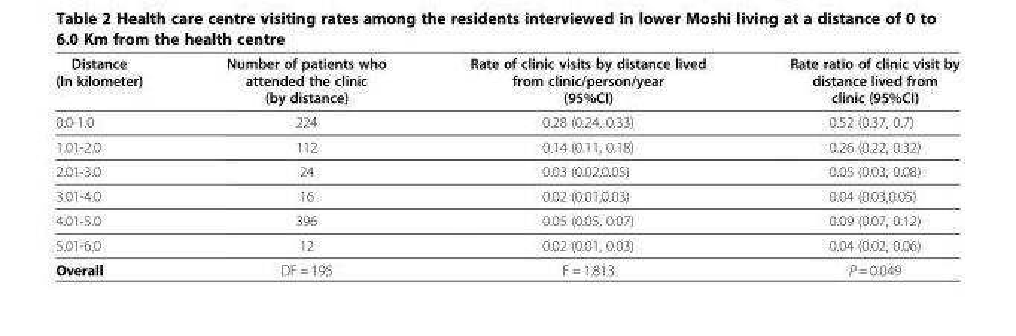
<table><thead><tr><td>Distance (In kilometer)</td><td>Number of patients who attended the clinic (by distance)</td><td>Rate of clinic visits by distance lived from clinic/person/year (95%CI)</td><td>Rate ratio of clinic visit by distance lived from clinic (95%CI)</td></tr></thead><tbody><tr><td>0.0-1.0</td><td>224</td><td>0.28 (0.24, 0.33)</td><td>0.52 (0.37, 0.7)</td></tr><tr><td>1.01-2.0</td><td>112</td><td>0.14 (0.11, 0.18)</td><td>0.26 (0.22, 0.32)</td></tr><tr><td>2.01-3.0</td><td>24</td><td>0.03 (0.02,0.05)</td><td>0.05 (0.03, 0.08)</td></tr><tr><td>3.01-4.0</td><td>16</td><td>0.02 (0.01,0.03)</td><td>0.04 (0.03,0.05)</td></tr><tr><td>4.01-5.0</td><td>396</td><td>0.05 (0.05, 0.07)</td><td>0.09 (0.07, 0.12)</td></tr><tr><td>5.01-6.0</td><td>12</td><td>0.02 (0.01, 0.03)</td><td>0.04 (0.02, 0.06)</td></tr><tr><td>Overall</td><td>DF = 195</td><td>F = 1.813</td><td>P = 0.049</td></tr></tbody></table>